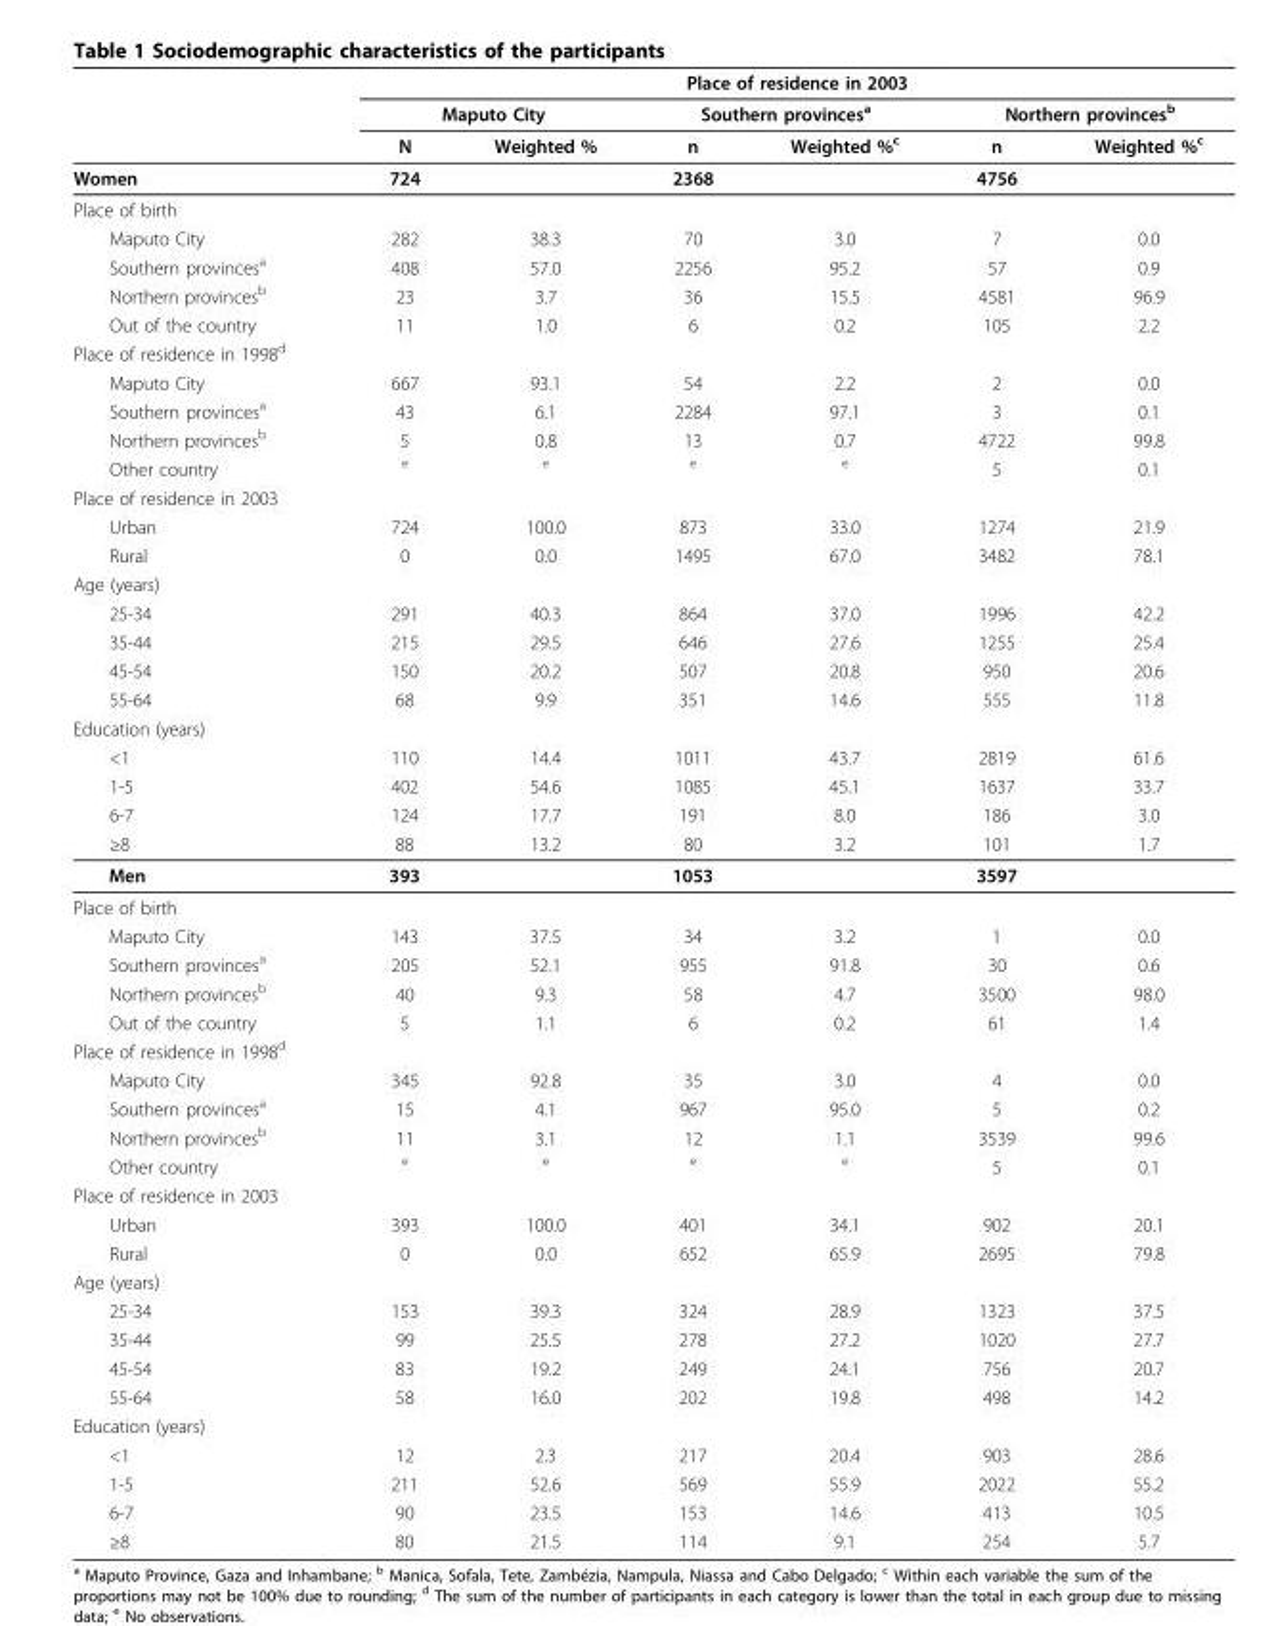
<table><thead><tr><td rowspan="3"></td><td colspan="6">Place of residence in 2003</td></tr><tr><td colspan="2">Maputo City</td><td colspan="2">Southern provinces<sup>a</sup></td><td colspan="2">Northern provinces<sup>b</sup></td></tr><tr><td>N</td><td>Weighted %</td><td>n</td><td>Weighted %<sup>c</sup></td><td>n</td><td>Weighted %<sup>c</sup></td></tr></thead><tbody><tr><td>Women</td><td>724</td><td></td><td>2368</td><td></td><td>4756</td><td></td></tr><tr><td colspan="7">Place of birth</td></tr><tr><td>Maputo City</td><td>282</td><td>38.3</td><td>70</td><td>3.0</td><td>7</td><td>0.0</td></tr><tr><td>Southern provinces<sup>a</sup></td><td>408</td><td>57.0</td><td>2256</td><td>95.2</td><td>57</td><td>0.9</td></tr><tr><td>Northern provinces<sup>b</sup></td><td>23</td><td>3.7</td><td>36</td><td>15.5</td><td>4581</td><td>96.9</td></tr><tr><td>Out of the country</td><td>11</td><td>1.0</td><td>6</td><td>0.2</td><td>105</td><td>2.2</td></tr><tr><td colspan="7">Place of residence in 1998<sup>d</sup></td></tr><tr><td>Maputo City</td><td>667</td><td>93.1</td><td>54</td><td>2.2</td><td>2</td><td>0.0</td></tr><tr><td>Southern provinces<sup>a</sup></td><td>43</td><td>6.1</td><td>2284</td><td>97.1</td><td>3</td><td>0.1</td></tr><tr><td>Northern provinces<sup>b</sup></td><td>5</td><td>0.8</td><td>13</td><td>0.7</td><td>4722</td><td>99.8</td></tr><tr><td>Other country</td><td><sup>e</sup></td><td><sup>e</sup></td><td><sup>e</sup></td><td><sup>e</sup></td><td>5</td><td>0.1</td></tr><tr><td colspan="7">Place of residence in 2003</td></tr><tr><td>Urban</td><td>724</td><td>100.0</td><td>873</td><td>33.0</td><td>1274</td><td>21.9</td></tr><tr><td>Rural</td><td>0</td><td>0.0</td><td>1495</td><td>67.0</td><td>3482</td><td>78.1</td></tr><tr><td colspan="7">Age (years)</td></tr><tr><td>25-34</td><td>291</td><td>40.3</td><td>864</td><td>37.0</td><td>1996</td><td>42.2</td></tr><tr><td>35-44</td><td>215</td><td>29.5</td><td>646</td><td>27.6</td><td>1255</td><td>25.4</td></tr><tr><td>45-54</td><td>150</td><td>20.2</td><td>507</td><td>20.8</td><td>950</td><td>20.6</td></tr><tr><td>55-64</td><td>68</td><td>9.9</td><td>351</td><td>14.6</td><td>555</td><td>11.8</td></tr><tr><td colspan="7">Education (years)</td></tr><tr><td>&lt;1</td><td>110</td><td>14.4</td><td>1011</td><td>43.7</td><td>2819</td><td>61.6</td></tr><tr><td>1-5</td><td>402</td><td>54.6</td><td>1085</td><td>45.1</td><td>1637</td><td>33.7</td></tr><tr><td>6-7</td><td>124</td><td>17.7</td><td>191</td><td>8.0</td><td>186</td><td>3.0</td></tr><tr><td>≥8</td><td>88</td><td>13.2</td><td>80</td><td>3.2</td><td>101</td><td>1.7</td></tr><tr><td>Men</td><td>393</td><td></td><td>1053</td><td></td><td>3597</td><td></td></tr><tr><td colspan="7">Place of birth</td></tr><tr><td>Maputo City</td><td>143</td><td>37.5</td><td>34</td><td>3.2</td><td>1</td><td>0.0</td></tr><tr><td>Southern provinces<sup>a</sup></td><td>205</td><td>52.1</td><td>955</td><td>91.8</td><td>30</td><td>0.6</td></tr><tr><td>Northern provinces<sup>b</sup></td><td>40</td><td>9.3</td><td>58</td><td>4.7</td><td>3500</td><td>98.0</td></tr><tr><td>Out of the country</td><td>5</td><td>1.1</td><td>6</td><td>0.2</td><td>61</td><td>1.4</td></tr><tr><td colspan="7">Place of residence in 1998<sup>d</sup></td></tr><tr><td>Maputo City</td><td>345</td><td>92.8</td><td>35</td><td>3.0</td><td>4</td><td>0.0</td></tr><tr><td>Southern provinces<sup>a</sup></td><td>15</td><td>4.1</td><td>967</td><td>95.0</td><td>5</td><td>0.2</td></tr><tr><td>Northern provinces<sup>b</sup></td><td>11</td><td>3.1</td><td>12</td><td>1.1</td><td>3539</td><td>99.6</td></tr><tr><td>Other country</td><td><sup>e</sup></td><td><sup>e</sup></td><td><sup>e</sup></td><td><sup>e</sup></td><td>5</td><td>0.1</td></tr><tr><td colspan="7">Place of residence in 2003</td></tr><tr><td>Urban</td><td>393</td><td>100.0</td><td>401</td><td>34.1</td><td>902</td><td>20.1</td></tr><tr><td>Rural</td><td>0</td><td>0.0</td><td>652</td><td>65.9</td><td>2695</td><td>79.8</td></tr><tr><td colspan="7">Age (years)</td></tr><tr><td>25-34</td><td>153</td><td>39.3</td><td>324</td><td>28.9</td><td>1323</td><td>37.5</td></tr><tr><td>35-44</td><td>99</td><td>25.5</td><td>278</td><td>27.2</td><td>1020</td><td>27.7</td></tr><tr><td>45-54</td><td>83</td><td>19.2</td><td>249</td><td>24.1</td><td>756</td><td>20.7</td></tr><tr><td>55-64</td><td>58</td><td>16.0</td><td>202</td><td>19.8</td><td>498</td><td>14.2</td></tr><tr><td colspan="7">Education (years)</td></tr><tr><td>&lt;1</td><td>12</td><td>2.3</td><td>217</td><td>20.4</td><td>903</td><td>28.6</td></tr><tr><td>1-5</td><td>211</td><td>52.6</td><td>569</td><td>55.9</td><td>2022</td><td>55.2</td></tr><tr><td>6-7</td><td>90</td><td>23.5</td><td>153</td><td>14.6</td><td>413</td><td>10.5</td></tr><tr><td>≥8</td><td>80</td><td>21.5</td><td>114</td><td>9.1</td><td>254</td><td>5.7</td></tr></tbody></table>